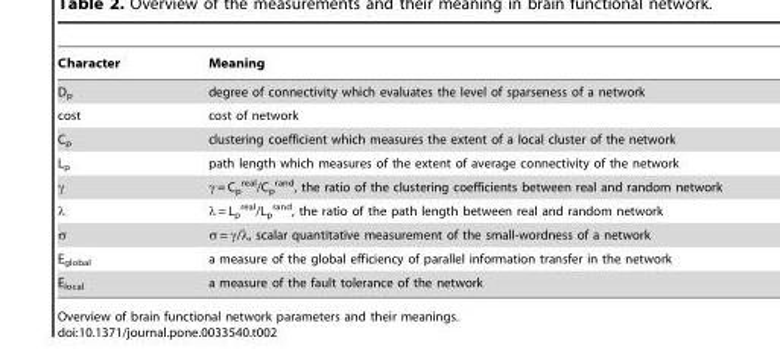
<table><thead><tr><td>Character</td><td>Meaning</td></tr></thead><tbody><tr><td>D<sub>p</sub></td><td>degree of connectivity which evaluates the level of sparseness of a network</td></tr><tr><td>cost</td><td>cost of network</td></tr><tr><td>C<sub>p</sub></td><td>clustering coefficient which measures the extent of a local cluster of the network</td></tr><tr><td>L<sub>p</sub></td><td>path length which measures of the extent of average connectivity of the network</td></tr><tr><td>γ</td><td>γ = C<sub>p</sub> <sup>real</sup>/C<sub>p</sub> <sup>rand</sup>, the ratio of the clustering coefficients between real and random network</td></tr><tr><td>λ</td><td>λ = L<sub>p</sub> <sup>real</sup>/L<sub>p</sub> <sup>rand</sup>, the ratio of the path length between real and random network</td></tr><tr><td>σ</td><td>σ = γ/λ, scalar quantitative measurement of the small-wordness of a network</td></tr><tr><td>E<sub>global</sub></td><td>a measure of the global efficiency of parallel information transfer in the network</td></tr><tr><td>E<sub>local</sub></td><td>a measure of the fault tolerance of the network</td></tr></tbody></table>